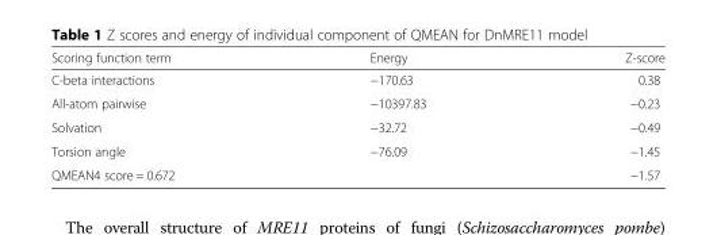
<table><thead><tr><td>Scoring function term</td><td>Energy</td><td>Z-score</td></tr></thead><tbody><tr><td>C-beta interactions</td><td>−170.63</td><td>0.38</td></tr><tr><td>All-atom pairwise</td><td>−10397.83</td><td>−0.23</td></tr><tr><td>Solvation</td><td>−32.72</td><td>−0.49</td></tr><tr><td>Torsion angle</td><td>−76.09</td><td>−1.45</td></tr><tr><td colspan="2">QMEAN4 score = 0.672</td><td>−1.57</td></tr></tbody></table>